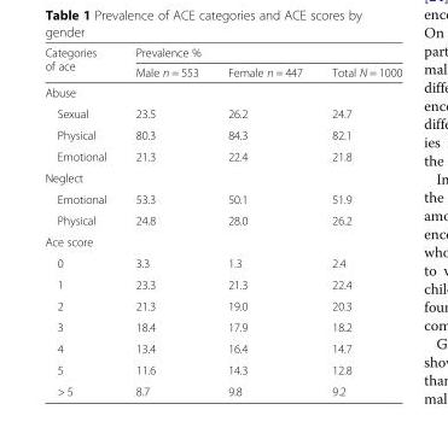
<table><thead><tr><td rowspan="2">Categories of ace</td><td colspan="3">Prevalence %</td></tr><tr><td>Male n = 553</td><td>Female n = 447</td><td>Total N = 1000</td></tr></thead><tbody><tr><td colspan="4">Abuse</td></tr><tr><td>Sexual</td><td>23.5</td><td>26.2</td><td>24.7</td></tr><tr><td>Physical</td><td>80.3</td><td>84.3</td><td>82.1</td></tr><tr><td>Emotional</td><td>21.3</td><td>22.4</td><td>21.8</td></tr><tr><td colspan="4">Neglect</td></tr><tr><td>Emotional</td><td>53.3</td><td>50.1</td><td>51.9</td></tr><tr><td>Physical</td><td>24.8</td><td>28.0</td><td>26.2</td></tr><tr><td colspan="4">Ace score</td></tr><tr><td>0</td><td>3.3</td><td>1.3</td><td>2.4</td></tr><tr><td>1</td><td>23.3</td><td>21.3</td><td>22.4</td></tr><tr><td>2</td><td>21.3</td><td>19.0</td><td>20.3</td></tr><tr><td>3</td><td>18.4</td><td>17.9</td><td>18.2</td></tr><tr><td>4</td><td>13.4</td><td>16.4</td><td>14.7</td></tr><tr><td>5</td><td>11.6</td><td>14.3</td><td>12.8</td></tr><tr><td>&gt; 5</td><td>8.7</td><td>9.8</td><td>9.2</td></tr></tbody></table>